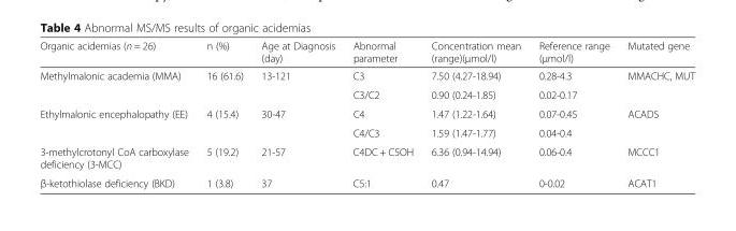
<table><thead><tr><td>Organic acidemias (n = 26)</td><td>n (%)</td><td>Age at Diagnosis (day)</td><td>Abnormal parameter</td><td>Concentration mean (range)(μmol/l)</td><td>Reference range (μmol/l)</td><td>Mutated gene</td></tr></thead><tbody><tr><td rowspan="2">Methylmalonic academia (MMA)</td><td rowspan="2">16 (61.6)</td><td rowspan="2">13-121</td><td>C3</td><td>7.50 (4.27-18.94)</td><td>0.28-4.3</td><td rowspan="2">MMACHC, MUT</td></tr><tr><td>C3/C2</td><td>0.90 (0.24-1.85)</td><td>0.02-0.17</td></tr><tr><td rowspan="2">Ethylmalonic encephalopathy (EE)</td><td rowspan="2">4 (15.4)</td><td rowspan="2">30-47</td><td>C4</td><td>1.47 (1.22-1.64)</td><td>0.07-0.45</td><td rowspan="2">ACADS</td></tr><tr><td>C4/C3</td><td>1.59 (1.47-1.77)</td><td>0.04-0.4</td></tr><tr><td>3-methylcrotonyl CoA carboxylase deficiency (3-MCC)</td><td>5 (19.2)</td><td>21-57</td><td>C4DC + C5OH</td><td>6.36 (0.94-14.94)</td><td>0.06-0.4</td><td>MCCC1</td></tr><tr><td>β-ketothiolase deficiency (BKD)</td><td>1 (3.8)</td><td>37</td><td>C5:1</td><td>0.47</td><td>0-0.02</td><td>ACAT1</td></tr></tbody></table>